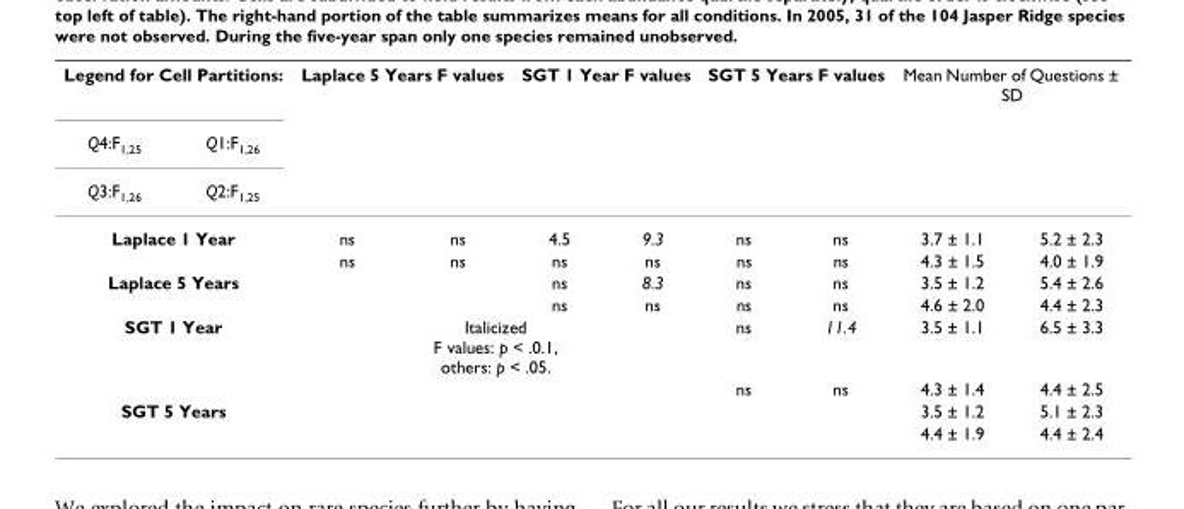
<table><thead><tr><td colspan="2">Legend for Cell Partitions:</td><td colspan="2">Laplace 5 Years F values</td><td colspan="2">SGT 1 Year F values</td><td colspan="2">SGT 5 Years F values</td><td colspan="2">Mean Number of Questions ± SD</td></tr><tr><td rowspan="2">Q4:F<sub>1,25</sub> Q3:F<sub>1,26</sub></td><td rowspan="2">Q1:F<sub>1,26</sub> Q2:F<sub>1,25</sub></td><td rowspan="2"></td><td rowspan="2"></td><td rowspan="2"></td><td rowspan="2"></td><td rowspan="2"></td><td rowspan="2"></td><td rowspan="2"></td><td rowspan="2"></td></tr><tr></tr></thead><tbody><tr><td colspan="2">Laplace 1 Year</td><td>ns</td><td>ns</td><td>4.5</td><td>9.3</td><td>ns</td><td>ns</td><td>3.7 ± 1.1</td><td>5.2 ± 2.3</td></tr><tr><td></td><td></td><td>ns</td><td>ns</td><td>ns</td><td>ns</td><td>ns</td><td>ns</td><td>4.3 ± 1.5</td><td>4.0 ± 1.9</td></tr><tr><td colspan="2">Laplace 5 Years</td><td></td><td></td><td>ns</td><td>8.3</td><td>ns</td><td>ns</td><td>3.5 ± 1.2</td><td>5.4 ± 2.6</td></tr><tr><td></td><td></td><td></td><td></td><td>ns</td><td>ns</td><td>ns</td><td>ns</td><td>4.6 ± 2.0</td><td>4.4 ± 2.3</td></tr><tr><td colspan="2">SGT 1 Year</td><td colspan="4">Italicized F values: p &lt; .0.1, others: p &lt; .05.</td><td>ns</td><td>11.4</td><td>3.5 ± 1.1</td><td>6.5 ± 3.3</td></tr><tr><td></td><td></td><td></td><td></td><td></td><td></td><td>ns</td><td>ns</td><td>4.3 ± 1.4</td><td>4.4 ± 2.5</td></tr><tr><td colspan="2">SGT 5 Years</td><td></td><td></td><td></td><td></td><td></td><td></td><td>3.5 ± 1.2</td><td>5.1 ± 2.3</td></tr><tr><td></td><td></td><td></td><td></td><td></td><td></td><td></td><td></td><td>4.4 ± 1.9</td><td>4.4 ± 2.4</td></tr></tbody></table>